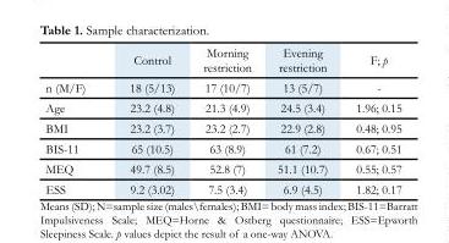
<table><thead><tr><td></td><td>Control</td><td>Morning restriction</td><td>Evening restriction</td><td>F; p</td></tr></thead><tbody><tr><td>n (M/F)</td><td>18 (5/13)</td><td>17 (10/7)</td><td>13 (5/7)</td><td>-</td></tr><tr><td>Age</td><td>23.2 (4.8)</td><td>21.3 (4.9)</td><td>24.5 (3.4)</td><td>1.96; 0.15</td></tr><tr><td>BMI</td><td>23.2 (3.7)</td><td>23.2 (2.7)</td><td>22.9 (2.8)</td><td>0.48; 0.95</td></tr><tr><td>BIS-11</td><td>65 (10.5)</td><td>63 (8.9)</td><td>61 (7.2)</td><td>0.67; 0.51</td></tr><tr><td>MEQ</td><td>49.7 (8.5)</td><td>52.8 (7)</td><td>51.1 (10.7)</td><td>0.55; 0.57</td></tr><tr><td>ESS</td><td>9.2 (3.02)</td><td>7.5 (3.4)</td><td>6.9 (4.5)</td><td>1.82; 0.17</td></tr></tbody></table>